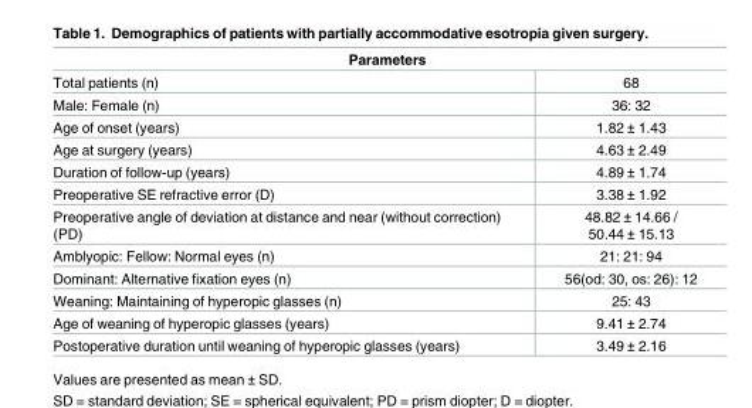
<table><thead><tr><td colspan="2">Parameters</td></tr><tr><td>Total patients (n)</td><td>68</td></tr></thead><tbody><tr><td>Male: Female (n)</td><td>36: 32</td></tr><tr><td>Age of onset (years)</td><td>1.82 ± 1.43</td></tr><tr><td>Age at surgery (years)</td><td>4.63 ± 2.49</td></tr><tr><td>Duration of follow-up (years)</td><td>4.89 ± 1.74</td></tr><tr><td>Preoperative SE refractive error (D)</td><td>3.38 ± 1.92</td></tr><tr><td>Preoperative angle of deviation at distance and near (without correction) (PD)</td><td>48.82 ± 14.66 / 50.44 ± 15.13</td></tr><tr><td>Amblyopic: Fellow: Normal eyes (n)</td><td>21: 21: 94</td></tr><tr><td>Dominant: Alternative fixation eyes (n)</td><td>56(od: 30, os: 26): 12</td></tr><tr><td>Weaning: Maintaining of hyperopic glasses (n)</td><td>25: 43</td></tr><tr><td>Age of weaning of hyperopic glasses (years)</td><td>9.41 ± 2.74</td></tr><tr><td>Postoperative duration until weaning of hyperopic glasses (years)</td><td>3.49 ± 2.16</td></tr></tbody></table>